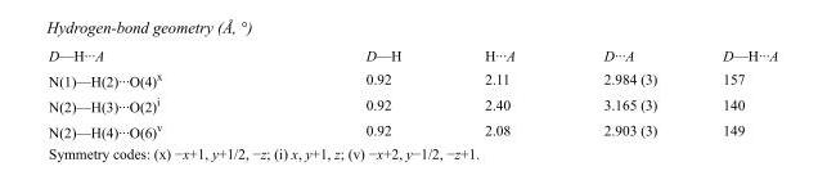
<table><tbody><tr><td>D—H···A</td><td>D—H</td><td>H···A</td><td>D···A</td><td>D—H···A</td></tr><tr><td>N(1)—H(2)···O(4)<sup>x</sup></td><td>0.92</td><td>2.11</td><td>2.984 (3)</td><td>157</td></tr><tr><td>N(2)—H(3)···O(2)<sup>i</sup></td><td>0.92</td><td>2.40</td><td>3.165 (3)</td><td>140</td></tr><tr><td>N(2)—H(4)···O(6)<sup>v</sup></td><td>0.92</td><td>2.08</td><td>2.903 (3)</td><td>149</td></tr></tbody></table>